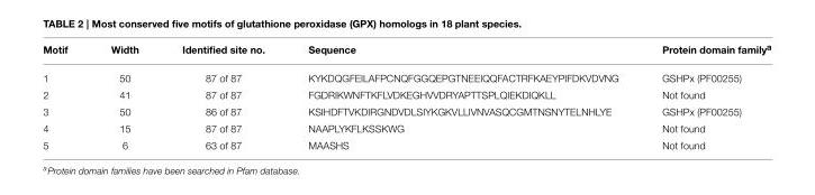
<table><thead><tr><td>Motif</td><td>Width</td><td>Identified site no.</td><td>Sequence</td><td>Protein domain family<sup>a</sup></td></tr></thead><tbody><tr><td>1</td><td>50</td><td>87 of 87</td><td>KYKDQGFEILAFPCNQFGGQEPGTNEEIQQFACTRFKAEYPIFDKVDVNG</td><td>GSHPx (PF00255)</td></tr><tr><td>2</td><td>41</td><td>87 of 87</td><td>FGDRIKWNFTKFLVDKEGHVVDRYAPTTSPLQIEKDIQKLL</td><td>Not found</td></tr><tr><td>3</td><td>50</td><td>86 of 87</td><td>KSIHDFTVKDIRGNDVDLSIYKGKVLLIVNVASQCGMTNSNYTELNHLYE</td><td>GSHPx (PF00255)</td></tr><tr><td>4</td><td>15</td><td>87 of 87</td><td>NAAPLYKFLKSSKWG</td><td>Not found</td></tr><tr><td>5</td><td>6</td><td>63 of 87</td><td>MAASHS</td><td>Not found</td></tr></tbody></table>